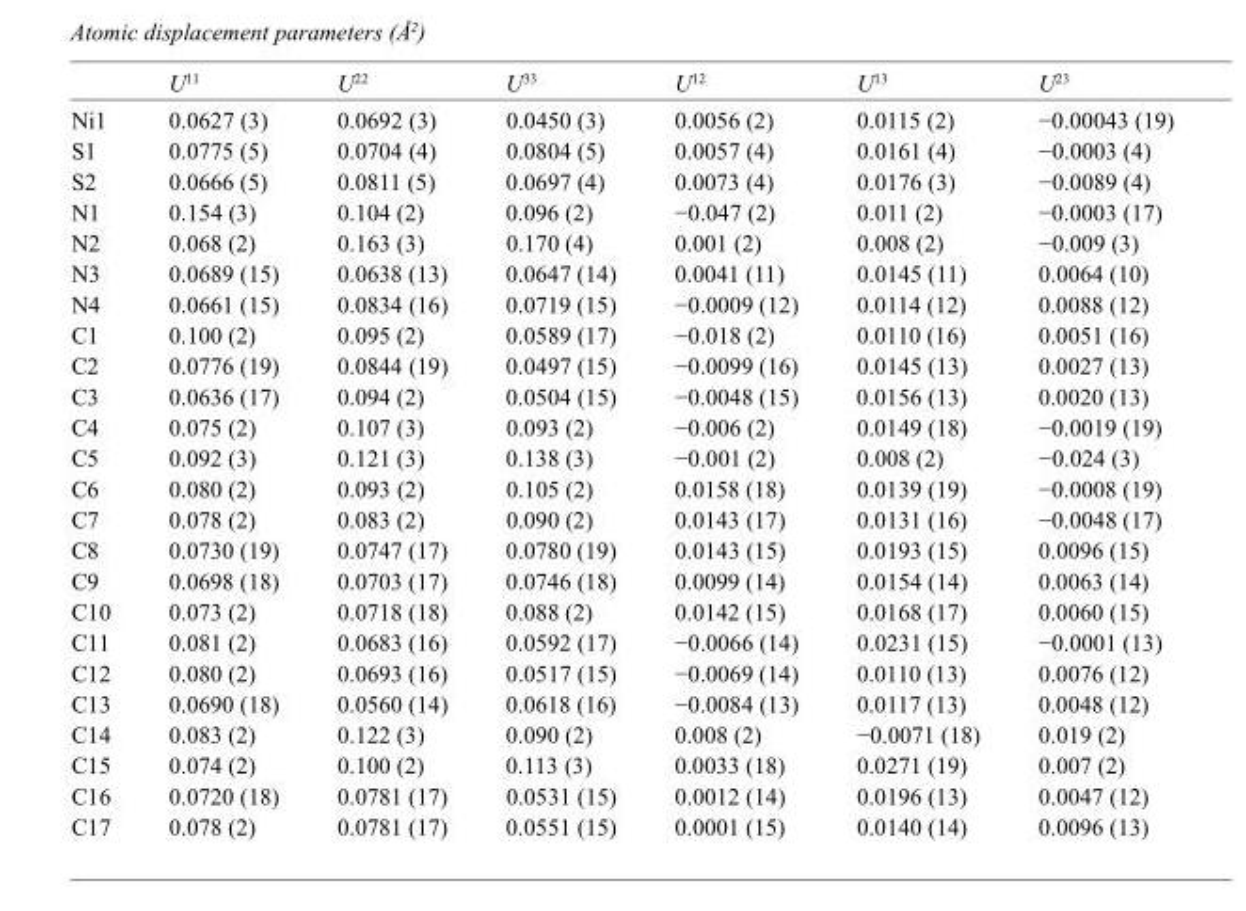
<table><thead><tr><td></td><td>U<sup>11</sup></td><td>U<sup>22</sup></td><td>U<sup>33</sup></td><td>U<sup>12</sup></td><td>U<sup>13</sup></td><td>U<sup>23</sup></td></tr></thead><tbody><tr><td>Ni1</td><td>0.0627 (3)</td><td>0.0692 (3)</td><td>0.0450 (3)</td><td>0.0056 (2)</td><td>0.0115 (2)</td><td>−0.00043 (19)</td></tr><tr><td>S1</td><td>0.0775 (5)</td><td>0.0704 (4)</td><td>0.0804 (5)</td><td>0.0057 (4)</td><td>0.0161 (4)</td><td>−0.0003 (4)</td></tr><tr><td>S2</td><td>0.0666 (5)</td><td>0.0811 (5)</td><td>0.0697 (4)</td><td>0.0073 (4)</td><td>0.0176 (3)</td><td>−0.0089 (4)</td></tr><tr><td>N1</td><td>0.154 (3)</td><td>0.104 (2)</td><td>0.096 (2)</td><td>−0.047 (2)</td><td>0.011 (2)</td><td>−0.0003 (17)</td></tr><tr><td>N2</td><td>0.068 (2)</td><td>0.163 (3)</td><td>0.170 (4)</td><td>0.001 (2)</td><td>0.008 (2)</td><td>−0.009 (3)</td></tr><tr><td>N3</td><td>0.0689 (15)</td><td>0.0638 (13)</td><td>0.0647 (14)</td><td>0.0041 (11)</td><td>0.0145 (11)</td><td>0.0064 (10)</td></tr><tr><td>N4</td><td>0.0661 (15)</td><td>0.0834 (16)</td><td>0.0719 (15)</td><td>−0.0009 (12)</td><td>0.0114 (12)</td><td>0.0088 (12)</td></tr><tr><td>C1</td><td>0.100 (2)</td><td>0.095 (2)</td><td>0.0589 (17)</td><td>−0.018 (2)</td><td>0.0110 (16)</td><td>0.0051 (16)</td></tr><tr><td>C2</td><td>0.0776 (19)</td><td>0.0844 (19)</td><td>0.0497 (15)</td><td>−0.0099 (16)</td><td>0.0145 (13)</td><td>0.0027 (13)</td></tr><tr><td>C3</td><td>0.0636 (17)</td><td>0.094 (2)</td><td>0.0504 (15)</td><td>−0.0048 (15)</td><td>0.0156 (13)</td><td>0.0020 (13)</td></tr><tr><td>C4</td><td>0.075 (2)</td><td>0.107 (3)</td><td>0.093 (2)</td><td>−0.006 (2)</td><td>0.0149 (18)</td><td>−0.0019 (19)</td></tr><tr><td>C5</td><td>0.092 (3)</td><td>0.121 (3)</td><td>0.138 (3)</td><td>−0.001 (2)</td><td>0.008 (2)</td><td>−0.024 (3)</td></tr><tr><td>C6</td><td>0.080 (2)</td><td>0.093 (2)</td><td>0.105 (2)</td><td>0.0158 (18)</td><td>0.0139 (19)</td><td>−0.0008 (19)</td></tr><tr><td>C7</td><td>0.078 (2)</td><td>0.083 (2)</td><td>0.090 (2)</td><td>0.0143 (17)</td><td>0.0131 (16)</td><td>−0.0048 (17)</td></tr><tr><td>C8</td><td>0.0730 (19)</td><td>0.0747 (17)</td><td>0.0780 (19)</td><td>0.0143 (15)</td><td>0.0193 (15)</td><td>0.0096 (15)</td></tr><tr><td>C9</td><td>0.0698 (18)</td><td>0.0703 (17)</td><td>0.0746 (18)</td><td>0.0099 (14)</td><td>0.0154 (14)</td><td>0.0063 (14)</td></tr><tr><td>C10</td><td>0.073 (2)</td><td>0.0718 (18)</td><td>0.088 (2)</td><td>0.0142 (15)</td><td>0.0168 (17)</td><td>0.0060 (15)</td></tr><tr><td>C11</td><td>0.081 (2)</td><td>0.0683 (16)</td><td>0.0592 (17)</td><td>−0.0066 (14)</td><td>0.0231 (15)</td><td>−0.0001 (13)</td></tr><tr><td>C12</td><td>0.080 (2)</td><td>0.0693 (16)</td><td>0.0517 (15)</td><td>−0.0069 (14)</td><td>0.0110 (13)</td><td>0.0076 (12)</td></tr><tr><td>C13</td><td>0.0690 (18)</td><td>0.0560 (14)</td><td>0.0618 (16)</td><td>−0.0084 (13)</td><td>0.0117 (13)</td><td>0.0048 (12)</td></tr><tr><td>C14</td><td>0.083 (2)</td><td>0.122 (3)</td><td>0.090 (2)</td><td>0.008 (2)</td><td>−0.0071 (18)</td><td>0.019 (2)</td></tr><tr><td>C15</td><td>0.074 (2)</td><td>0.100 (2)</td><td>0.113 (3)</td><td>0.0033 (18)</td><td>0.0271 (19)</td><td>0.007 (2)</td></tr><tr><td>C16</td><td>0.0720 (18)</td><td>0.0781 (17)</td><td>0.0531 (15)</td><td>0.0012 (14)</td><td>0.0196 (13)</td><td>0.0047 (12)</td></tr><tr><td>C17</td><td>0.078 (2)</td><td>0.0781 (17)</td><td>0.0551 (15)</td><td>0.0001 (15)</td><td>0.0140 (14)</td><td>0.0096 (13)</td></tr></tbody></table>